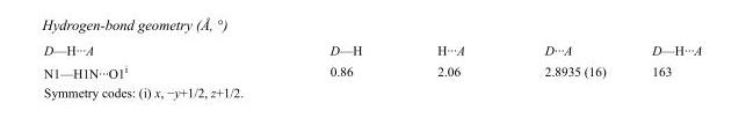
<table><tbody><tr><td>D—H···A</td><td>D—H</td><td>H···A</td><td>D···A</td><td>D—H···A</td></tr><tr><td>N1—H1N···O1<sup>i</sup></td><td>0.86</td><td>2.06</td><td>2.8935 (16)</td><td>163</td></tr></tbody></table>